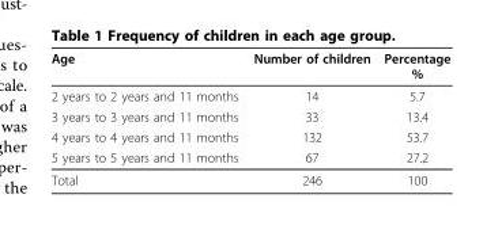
<table><thead><tr><td>Age</td><td>Number of children</td><td>Percentage %</td></tr></thead><tbody><tr><td>2 years to 2 years and 11 months</td><td>14</td><td>5.7</td></tr><tr><td>3 years to 3 years and 11 months</td><td>33</td><td>13.4</td></tr><tr><td>4 years to 4 years and 11 months</td><td>132</td><td>53.7</td></tr><tr><td>5 years to 5 years and 11 months</td><td>67</td><td>27.2</td></tr><tr><td>Total</td><td>246</td><td>100</td></tr></tbody></table>